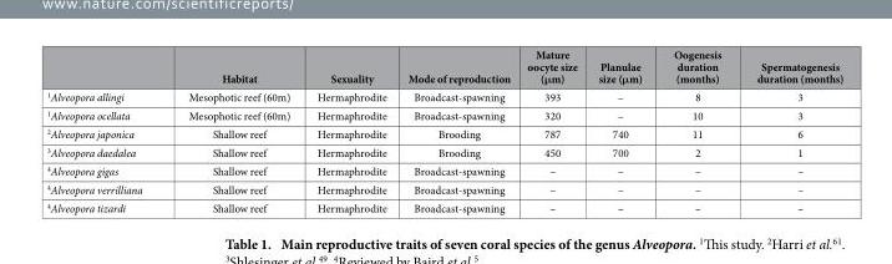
<table><thead><tr><td></td><td>Habitat</td><td>Sexuality</td><td>Mode of reproduction</td><td>Mature oocyte size (μm)</td><td>Planulae size (μm)</td><td>Oogenesis duration (months)</td><td>Spermatogenesis duration (months)</td></tr></thead><tbody><tr><td>1Alveopora allingi</td><td>Mesophotic reef (60m)</td><td>Hermaphrodite</td><td>Broadcast-spawning</td><td>393</td><td>–</td><td>8</td><td>3</td></tr><tr><td>1Alveopora ocellata</td><td>Mesophotic reef (60m)</td><td>Hermaphrodite</td><td>Broadcast-spawning</td><td>320</td><td>–</td><td>10</td><td>3</td></tr><tr><td>2Alveopora japonica</td><td>Shallow reef</td><td>Hermaphrodite</td><td>Brooding</td><td>787</td><td>740</td><td>11</td><td>6</td></tr><tr><td>3Alveopora daedalea</td><td>Shallow reef</td><td>Hermaphrodite</td><td>Brooding</td><td>450</td><td>700</td><td>2</td><td>1</td></tr><tr><td>4Alveopora gigas</td><td>Shallow reef</td><td>Hermaphrodite</td><td>Broadcast-spawning</td><td>–</td><td>–</td><td>–</td><td>–</td></tr><tr><td>4Alveopora verrilliana</td><td>Shallow reef</td><td>Hermaphrodite</td><td>Broadcast-spawning</td><td>–</td><td>–</td><td>–</td><td>–</td></tr><tr><td>4Alveopora tizardi</td><td>Shallow reef</td><td>Hermaphrodite</td><td>Broadcast-spawning</td><td>–</td><td>–</td><td>–</td><td>–</td></tr></tbody></table>